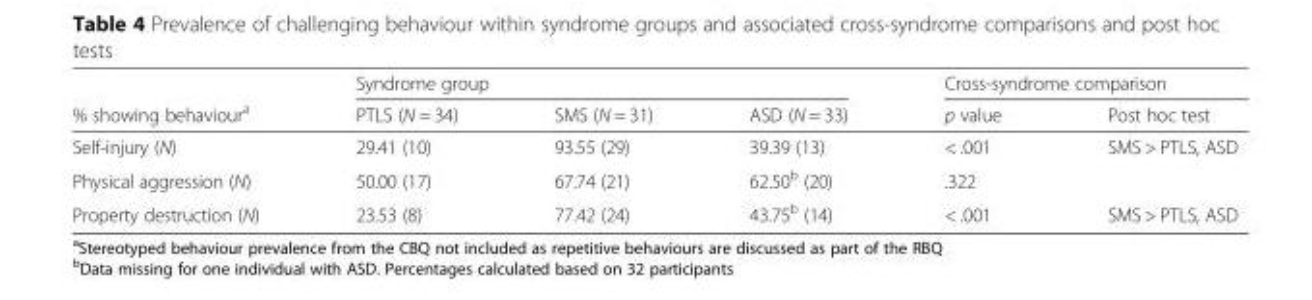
<table><thead><tr><td rowspan="2">% showing behaviour<sup>a</sup></td><td colspan="3">Syndrome group</td><td colspan="2">Cross-syndrome comparison</td></tr><tr><td>PTLS (N = 34)</td><td>SMS (N = 31)</td><td>ASD (N = 33)</td><td>p value</td><td>Post hoc test</td></tr></thead><tbody><tr><td>Self-injury (N)</td><td>29.41 (10)</td><td>93.55 (29)</td><td>39.39 (13)</td><td>&lt; .001</td><td>SMS &gt; PTLS, ASD</td></tr><tr><td>Physical aggression (N)</td><td>50.00 (17)</td><td>67.74 (21)</td><td>62.50<sup>b</sup> (20)</td><td>.322</td><td></td></tr><tr><td>Property destruction (N)</td><td>23.53 (8)</td><td>77.42 (24)</td><td>43.75<sup>b</sup> (14)</td><td>&lt; .001</td><td>SMS &gt; PTLS, ASD</td></tr></tbody></table>